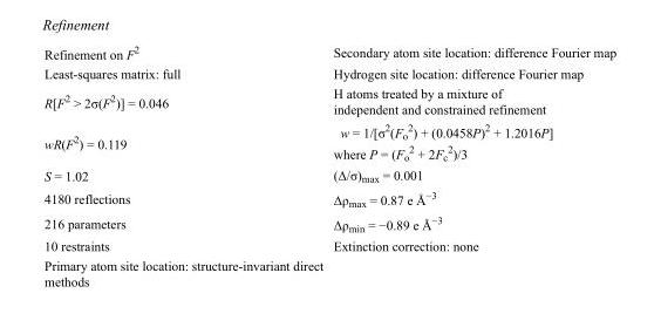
<table><tbody><tr><td>Refinement on F<sup>2</sup></td><td>Secondary atom site location: difference Fourier map</td></tr><tr><td>Least-squares matrix: full</td><td>Hydrogen site location: difference Fourier map</td></tr><tr><td>R[F<sup>2</sup> &gt; 2σ(F<sup>2</sup>)] = 0.046</td><td>H atoms treated by a mixture of independent and constrained refinement</td></tr><tr><td>wR(F<sup>2</sup>) = 0.119</td><td>w = 1/[σ<sup>2</sup>(F<sub>o</sub> <sup>2</sup>) + (0.0458P)<sup>2</sup> + 1.2016P] where P = (F<sub>o</sub> <sup>2</sup> + 2F<sub>c</sub> <sup>2</sup>)/3</td></tr><tr><td>S = 1.02</td><td>(Δ/σ)<sub>max</sub> = 0.001</td></tr><tr><td>4180 reflections</td><td>Δρ<sub>max</sub> = 0.87 e Å<sup>−3</sup></td></tr><tr><td>216 parameters</td><td>Δρ<sub>min</sub> = −0.89 e Å<sup>−3</sup></td></tr><tr><td>10 restraints</td><td>Extinction correction: none</td></tr><tr><td>Primary atom site location: structure-invariant direct methods</td><td></td></tr></tbody></table>